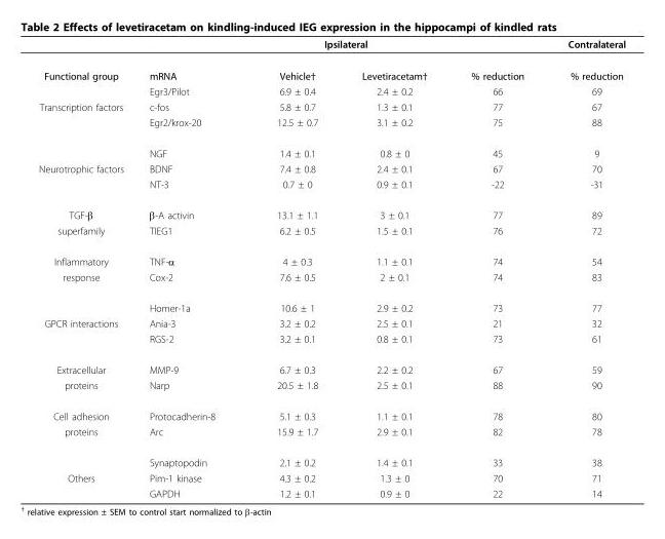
<table><thead><tr><td rowspan="2">Functional group</td><td colspan="4">Ipsilateral</td><td rowspan="2">Contralateral % reduction</td></tr><tr><td>mRNA</td><td>Vehicle†</td><td>Levetiracetam†</td><td>% reduction</td></tr></thead><tbody><tr><td></td><td>Egr3/Pilot</td><td>6.9 ± 0.4</td><td>2.4 ± 0.2</td><td>66</td><td>69</td></tr><tr><td rowspan="3">Transcription factors</td><td>c-fos</td><td>5.8 ± 0.7</td><td>1.3 ± 0.1</td><td>77</td><td>67</td></tr><tr><td>Egr2/krox-20</td><td>12.5 ± 0.7</td><td>3.1 ± 0.2</td><td>75</td><td>88</td></tr><tr><td>NGF</td><td>1.4 ± 0.1</td><td>0.8 ± 0</td><td>45</td><td>9</td></tr><tr><td rowspan="2">Neurotrophic factors</td><td>BDNF</td><td>7.4 ± 0.8</td><td>2.4 ± 0.1</td><td>67</td><td>70</td></tr><tr><td>NT-3</td><td>0.7 ± 0</td><td>0.9 ± 0.1</td><td>-22</td><td>-31</td></tr><tr><td>TGF-β</td><td>β-A activin</td><td>13.1 ± 1.1</td><td>3 ± 0.1</td><td>77</td><td>89</td></tr><tr><td>superfamily</td><td>TIEG1</td><td>6.2 ± 0.5</td><td>1.5 ± 0.1</td><td>76</td><td>72</td></tr><tr><td>Inflammatory</td><td>TNF-α</td><td>4 ± 0.3</td><td>1.1 ± 0.1</td><td>74</td><td>54</td></tr><tr><td rowspan="2">response</td><td>Cox-2</td><td>7.6 ± 0.5</td><td>2 ± 0.1</td><td>74</td><td>83</td></tr><tr><td>Homer-1a</td><td>10.6 ± 1</td><td>2.9 ± 0.2</td><td>73</td><td>77</td></tr><tr><td rowspan="2">GPCR interactions</td><td>Ania-3</td><td>3.2 ± 0.2</td><td>2.5 ± 0.1</td><td>21</td><td>32</td></tr><tr><td>RGS-2</td><td>3.2 ± 0.1</td><td>0.8 ± 0.1</td><td>73</td><td>61</td></tr><tr><td>Extracellular</td><td>MMP-9</td><td>6.7 ± 0.3</td><td>2.2 ± 0.2</td><td>67</td><td>59</td></tr><tr><td>proteins</td><td>Narp</td><td>20.5 ± 1.8</td><td>2.5 ± 0.1</td><td>88</td><td>90</td></tr><tr><td>Cell adhesion</td><td>Protocadherin-8</td><td>5.1 ± 0.3</td><td>1.1 ± 0.1</td><td>78</td><td>80</td></tr><tr><td rowspan="2">proteins</td><td>Arc</td><td>15.9 ± 1.7</td><td>2.9 ± 0.1</td><td>82</td><td>78</td></tr><tr><td>Synaptopodin</td><td>2.1 ± 0.2</td><td>1.4 ± 0.1</td><td>33</td><td>38</td></tr><tr><td rowspan="2">Others</td><td>Pim-1 kinase</td><td>4.3 ± 0.2</td><td>1.3 ± 0</td><td>70</td><td>71</td></tr><tr><td>GAPDH</td><td>1.2 ± 0.1</td><td>0.9 ± 0</td><td>22</td><td>14</td></tr></tbody></table>